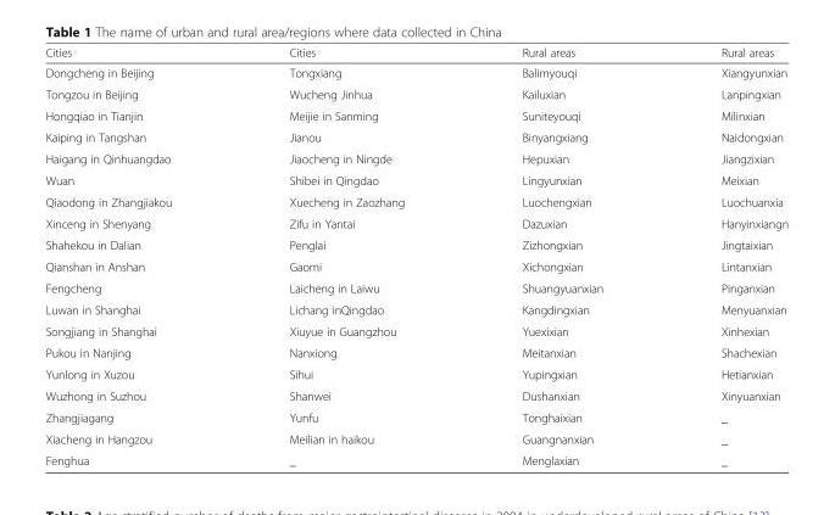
<table><thead><tr><td>Cities</td><td>Cities</td><td>Rural areas</td><td>Rural areas</td></tr></thead><tbody><tr><td>Dongcheng in Beijing</td><td>Tongxiang</td><td>Balimyouqi</td><td>Xiangyunxian</td></tr><tr><td>Tongzou in Beijing</td><td>Wucheng Jinhua</td><td>Kailuxian</td><td>Lanpingxian</td></tr><tr><td>Hongqiao in Tianjin</td><td>Meijie in Sanming</td><td>Suniteyouqi</td><td>Milinxian</td></tr><tr><td>Kaiping in Tangshan</td><td>Jianou</td><td>Binyangxiang</td><td>Naidongxian</td></tr><tr><td>Haigang in Qinhuangdao</td><td>Jiaocheng in Ningde</td><td>Hepuxian</td><td>Jiangzixian</td></tr><tr><td>Wuan</td><td>Shibei in Qingdao</td><td>Lingyunxian</td><td>Meixian</td></tr><tr><td>Qiaodong in Zhangjiakou</td><td>Xuecheng in Zaozhang</td><td>Luochengxian</td><td>Luochuanxia</td></tr><tr><td>Xinceng in Shenyang</td><td>Zifu in Yantai</td><td>Dazuxian</td><td>Hanyinxiangn</td></tr><tr><td>Shahekou in Dalian</td><td>Penglai</td><td>Zizhongxian</td><td>Jingtaixian</td></tr><tr><td>Qianshan in Anshan</td><td>Gaomi</td><td>Xichongxian</td><td>Lintanxian</td></tr><tr><td>Fengcheng</td><td>Laicheng in Laiwu</td><td>Shuangyuanxian</td><td>Pinganxian</td></tr><tr><td>Luwan in Shanghai</td><td>Lichang inQingdao</td><td>Kangdingxian</td><td>Menyuanxian</td></tr><tr><td>Songjiang in Shanghai</td><td>Xiuyue in Guangzhou</td><td>Yuexixian</td><td>Xinhexian</td></tr><tr><td>Pukou in Nanjing</td><td>Nanxiong</td><td>Meitanxian</td><td>Shachexian</td></tr><tr><td>Yunlong in Xuzou</td><td>Sihui</td><td>Yupingxian</td><td>Hetianxian</td></tr><tr><td>Wuzhong in Suzhou</td><td>Shanwei</td><td>Dushanxian</td><td>Xinyuanxian</td></tr><tr><td>Zhangjiagang</td><td>Yunfu</td><td>Tonghaixian</td><td>_</td></tr><tr><td>Xiacheng in Hangzou</td><td>Meilian in haikou</td><td>Guangnanxian</td><td>_</td></tr><tr><td>Fenghua</td><td>_</td><td>Menglaxian</td><td>_</td></tr></tbody></table>